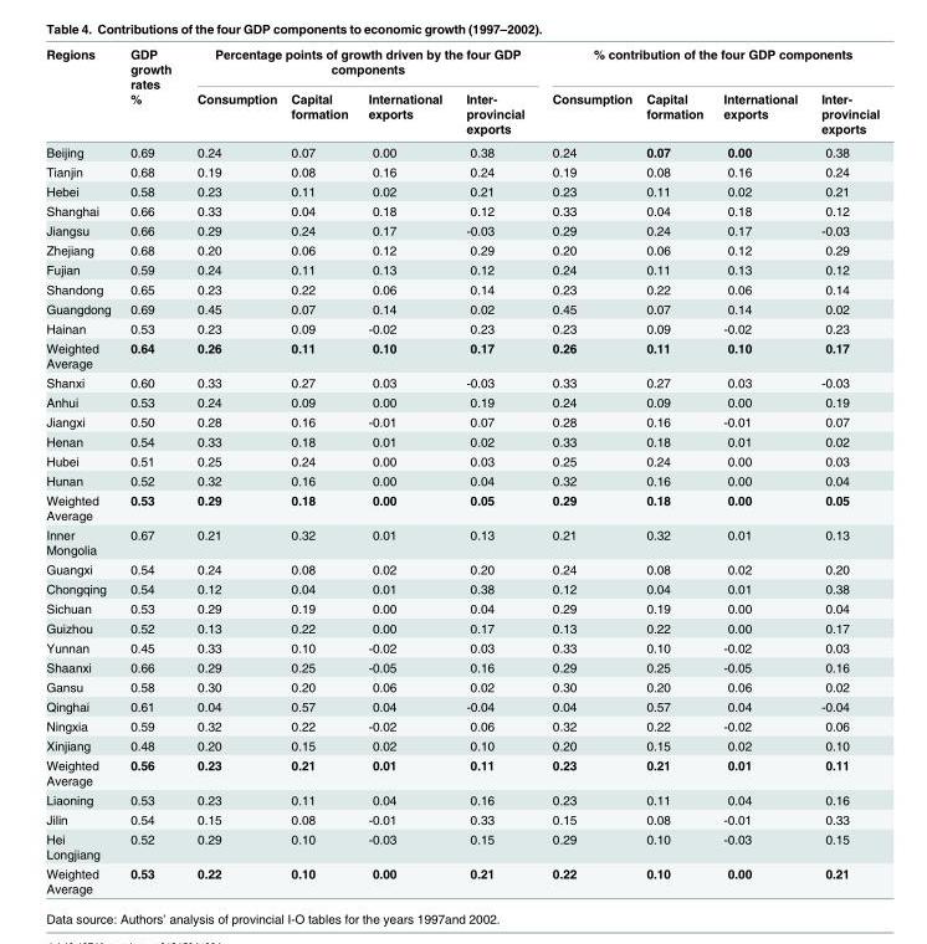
<table><thead><tr><td rowspan="2">Regions</td><td rowspan="2">GDP growth rates %</td><td colspan="4">Percentage points of growth driven by the four GDP components</td><td colspan="4">% contribution of the four GDP components</td></tr><tr><td>Consumption</td><td>Capital formation</td><td>International exports</td><td>Inter- provincial exports</td><td>Consumption</td><td>Capital formation</td><td>International exports</td><td>Inter- provincial exports</td></tr></thead><tbody><tr><td>Beijing</td><td>0.69</td><td>0.24</td><td>0.07</td><td>0.00</td><td>0.38</td><td>0.24</td><td>0.07</td><td>0.00</td><td>0.38</td></tr><tr><td>Tianjin</td><td>0.68</td><td>0.19</td><td>0.08</td><td>0.16</td><td>0.24</td><td>0.19</td><td>0.08</td><td>0.16</td><td>0.24</td></tr><tr><td>Hebei</td><td>0.58</td><td>0.23</td><td>0.11</td><td>0.02</td><td>0.21</td><td>0.23</td><td>0.11</td><td>0.02</td><td>0.21</td></tr><tr><td>Shanghai</td><td>0.66</td><td>0.33</td><td>0.04</td><td>0.18</td><td>0.12</td><td>0.33</td><td>0.04</td><td>0.18</td><td>0.12</td></tr><tr><td>Jiangsu</td><td>0.66</td><td>0.29</td><td>0.24</td><td>0.17</td><td>-0.03</td><td>0.29</td><td>0.24</td><td>0.17</td><td>-0.03</td></tr><tr><td>Zhejiang</td><td>0.68</td><td>0.20</td><td>0.06</td><td>0.12</td><td>0.29</td><td>0.20</td><td>0.06</td><td>0.12</td><td>0.29</td></tr><tr><td>Fujian</td><td>0.59</td><td>0.24</td><td>0.11</td><td>0.13</td><td>0.12</td><td>0.24</td><td>0.11</td><td>0.13</td><td>0.12</td></tr><tr><td>Shandong</td><td>0.65</td><td>0.23</td><td>0.22</td><td>0.06</td><td>0.14</td><td>0.23</td><td>0.22</td><td>0.06</td><td>0.14</td></tr><tr><td>Guangdong</td><td>0.69</td><td>0.45</td><td>0.07</td><td>0.14</td><td>0.02</td><td>0.45</td><td>0.07</td><td>0.14</td><td>0.02</td></tr><tr><td>Hainan</td><td>0.53</td><td>0.23</td><td>0.09</td><td>-0.02</td><td>0.23</td><td>0.23</td><td>0.09</td><td>-0.02</td><td>0.23</td></tr><tr><td>Weighted Average</td><td>0.64</td><td>0.26</td><td>0.11</td><td>0.10</td><td>0.17</td><td>0.26</td><td>0.11</td><td>0.10</td><td>0.17</td></tr><tr><td>Shanxi</td><td>0.60</td><td>0.33</td><td>0.27</td><td>0.03</td><td>-0.03</td><td>0.33</td><td>0.27</td><td>0.03</td><td>-0.03</td></tr><tr><td>Anhui</td><td>0.53</td><td>0.24</td><td>0.09</td><td>0.00</td><td>0.19</td><td>0.24</td><td>0.09</td><td>0.00</td><td>0.19</td></tr><tr><td>Jiangxi</td><td>0.50</td><td>0.28</td><td>0.16</td><td>-0.01</td><td>0.07</td><td>0.28</td><td>0.16</td><td>-0.01</td><td>0.07</td></tr><tr><td>Henan</td><td>0.54</td><td>0.33</td><td>0.18</td><td>0.01</td><td>0.02</td><td>0.33</td><td>0.18</td><td>0.01</td><td>0.02</td></tr><tr><td>Hubei</td><td>0.51</td><td>0.25</td><td>0.24</td><td>0.00</td><td>0.03</td><td>0.25</td><td>0.24</td><td>0.00</td><td>0.03</td></tr><tr><td>Hunan</td><td>0.52</td><td>0.32</td><td>0.16</td><td>0.00</td><td>0.04</td><td>0.32</td><td>0.16</td><td>0.00</td><td>0.04</td></tr><tr><td>Weighted Average</td><td>0.53</td><td>0.29</td><td>0.18</td><td>0.00</td><td>0.05</td><td>0.29</td><td>0.18</td><td>0.00</td><td>0.05</td></tr><tr><td>Inner Mongolia</td><td>0.67</td><td>0.21</td><td>0.32</td><td>0.01</td><td>0.13</td><td>0.21</td><td>0.32</td><td>0.01</td><td>0.13</td></tr><tr><td>Guangxi</td><td>0.54</td><td>0.24</td><td>0.08</td><td>0.02</td><td>0.20</td><td>0.24</td><td>0.08</td><td>0.02</td><td>0.20</td></tr><tr><td>Chongqing</td><td>0.54</td><td>0.12</td><td>0.04</td><td>0.01</td><td>0.38</td><td>0.12</td><td>0.04</td><td>0.01</td><td>0.38</td></tr><tr><td>Sichuan</td><td>0.53</td><td>0.29</td><td>0.19</td><td>0.00</td><td>0.04</td><td>0.29</td><td>0.19</td><td>0.00</td><td>0.04</td></tr><tr><td>Guizhou</td><td>0.52</td><td>0.13</td><td>0.22</td><td>0.00</td><td>0.17</td><td>0.13</td><td>0.22</td><td>0.00</td><td>0.17</td></tr><tr><td>Yunnan</td><td>0.45</td><td>0.33</td><td>0.10</td><td>-0.02</td><td>0.03</td><td>0.33</td><td>0.10</td><td>-0.02</td><td>0.03</td></tr><tr><td>Shaanxi</td><td>0.66</td><td>0.29</td><td>0.25</td><td>-0.05</td><td>0.16</td><td>0.29</td><td>0.25</td><td>-0.05</td><td>0.16</td></tr><tr><td>Gansu</td><td>0.58</td><td>0.30</td><td>0.20</td><td>0.06</td><td>0.02</td><td>0.30</td><td>0.20</td><td>0.06</td><td>0.02</td></tr><tr><td>Qinghai</td><td>0.61</td><td>0.04</td><td>0.57</td><td>0.04</td><td>-0.04</td><td>0.04</td><td>0.57</td><td>0.04</td><td>-0.04</td></tr><tr><td>Ningxia</td><td>0.59</td><td>0.32</td><td>0.22</td><td>-0.02</td><td>0.06</td><td>0.32</td><td>0.22</td><td>-0.02</td><td>0.06</td></tr><tr><td>Xinjiang</td><td>0.48</td><td>0.20</td><td>0.15</td><td>0.02</td><td>0.10</td><td>0.20</td><td>0.15</td><td>0.02</td><td>0.10</td></tr><tr><td>Weighted Average</td><td>0.56</td><td>0.23</td><td>0.21</td><td>0.01</td><td>0.11</td><td>0.23</td><td>0.21</td><td>0.01</td><td>0.11</td></tr><tr><td>Liaoning</td><td>0.53</td><td>0.23</td><td>0.11</td><td>0.04</td><td>0.16</td><td>0.23</td><td>0.11</td><td>0.04</td><td>0.16</td></tr><tr><td>Jilin</td><td>0.54</td><td>0.15</td><td>0.08</td><td>-0.01</td><td>0.33</td><td>0.15</td><td>0.08</td><td>-0.01</td><td>0.33</td></tr><tr><td>Hei Longjiang</td><td>0.52</td><td>0.29</td><td>0.10</td><td>-0.03</td><td>0.15</td><td>0.29</td><td>0.10</td><td>-0.03</td><td>0.15</td></tr><tr><td>Weighted Average</td><td>0.53</td><td>0.22</td><td>0.10</td><td>0.00</td><td>0.21</td><td>0.22</td><td>0.10</td><td>0.00</td><td>0.21</td></tr></tbody></table>